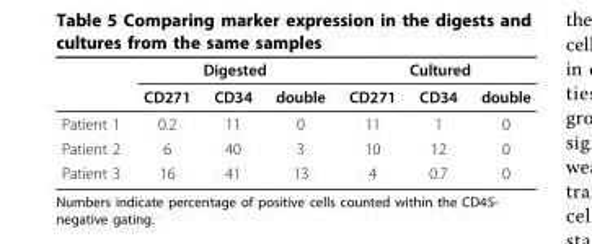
<table><thead><tr><td rowspan="2"></td><td colspan="3">Digested</td><td colspan="3">Cultured</td></tr><tr><td>CD271</td><td>CD34</td><td>double</td><td>CD271</td><td>CD34</td><td>double</td></tr></thead><tbody><tr><td>Patient 1</td><td>0.2</td><td>11</td><td>0</td><td>11</td><td>1</td><td>0</td></tr><tr><td>Patient 2</td><td>6</td><td>40</td><td>3</td><td>10</td><td>12</td><td>0</td></tr><tr><td>Patient 3</td><td>16</td><td>41</td><td>13</td><td>4</td><td>0.7</td><td>0</td></tr></tbody></table>